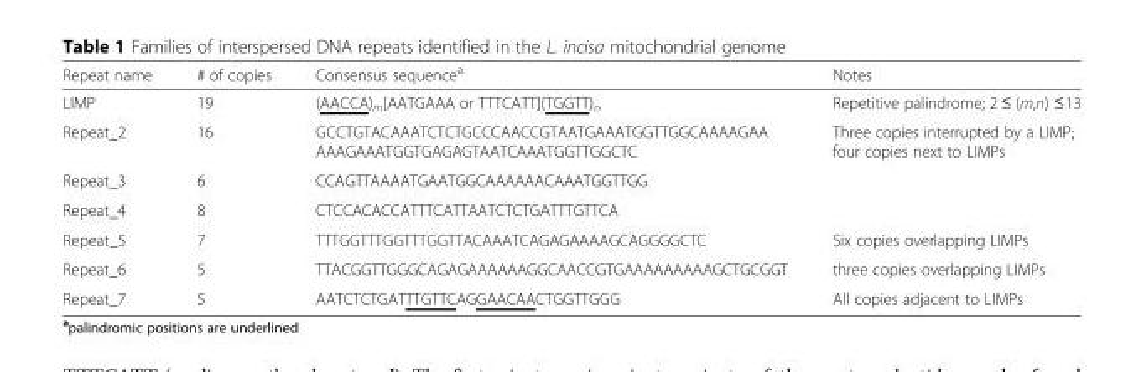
<table><thead><tr><td>Repeat name</td><td># of copies</td><td>Consensus sequence<sup>a</sup></td><td>Notes</td></tr></thead><tbody><tr><td>LIMP</td><td>19</td><td>(AACCA)<sub>m</sub>[AATGAAA or TTTCATT](TGGTT)<sub>n</sub></td><td>Repetitive palindrome; 2 ≤ (m,n) ≤13</td></tr><tr><td>Repeat_2</td><td>16</td><td>GCCTGTACAAATCTCTGCCCAACCGTAATGAAATGGTTGGCAAAAGAA AAAGAAATGGTGAGAGTAATCAAATGGTTGGCTC</td><td>Three copies interrupted by a LIMP; four copies next to LIMPs</td></tr><tr><td>Repeat_3</td><td>6</td><td>CCAGTTAAAATGAATGGCAAAAAACAAATGGTTGG</td><td></td></tr><tr><td>Repeat_4</td><td>8</td><td>CTCCACACCATTTCATTAATCTCTGATTTGTTCA</td><td></td></tr><tr><td>Repeat_5</td><td>7</td><td>TTTGGTTTGGTTTGGTTACAAATCAGAGAAAAGCAGGGGCTC</td><td>Six copies overlapping LIMPs</td></tr><tr><td>Repeat_6</td><td>5</td><td>TTACGGTTGGGCAGAGAAAAAAGGCAACCGTGAAAAAAAAAGCTGCGGT</td><td>three copies overlapping LIMPs</td></tr><tr><td>Repeat_7</td><td>5</td><td>AATCTCTGATTTGTTCAGGAACAACTGGTTGGG</td><td>All copies adjacent to LIMPs</td></tr></tbody></table>